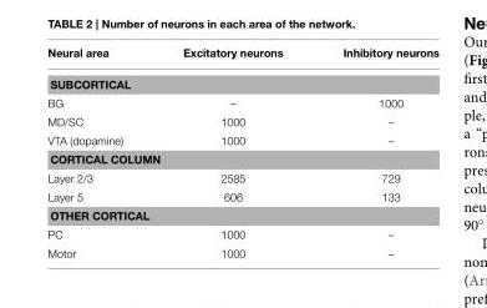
<table><thead><tr><td>Neural area</td><td>Excitatory neurons</td><td>Inhibitory neurons</td></tr></thead><tbody><tr><td colspan="3">SUBCORTICAL</td></tr><tr><td>BG</td><td>–</td><td>1000</td></tr><tr><td>MD/SC</td><td>1000</td><td>–</td></tr><tr><td>VTA (dopamine)</td><td>1000</td><td>–</td></tr><tr><td colspan="3">CORTICAL COLUMN</td></tr><tr><td>Layer 2/3</td><td>2585</td><td>729</td></tr><tr><td>Layer 5</td><td>606</td><td>133</td></tr><tr><td colspan="3">OTHER CORTICAL</td></tr><tr><td>PC</td><td>1000</td><td>–</td></tr><tr><td>Motor</td><td>1000</td><td>–</td></tr></tbody></table>